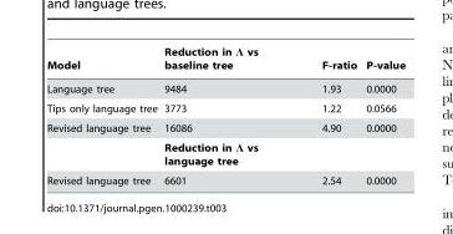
<table><thead><tr><td>Model</td><td>Reduction in Λ vs baseline tree</td><td>F-ratio</td><td>P-value</td></tr></thead><tbody><tr><td>Language tree</td><td>9484</td><td>1.93</td><td>0.0000</td></tr><tr><td>Tips only language tree</td><td>3773</td><td>1.22</td><td>0.0566</td></tr><tr><td rowspan="2">Revised language tree</td><td>16086</td><td>4.90</td><td>0.0000</td></tr><tr><td>Reduction in Λ vs language tree</td><td></td><td></td></tr><tr><td>Revised language tree</td><td>6601</td><td>2.54</td><td>0.0000</td></tr></tbody></table>